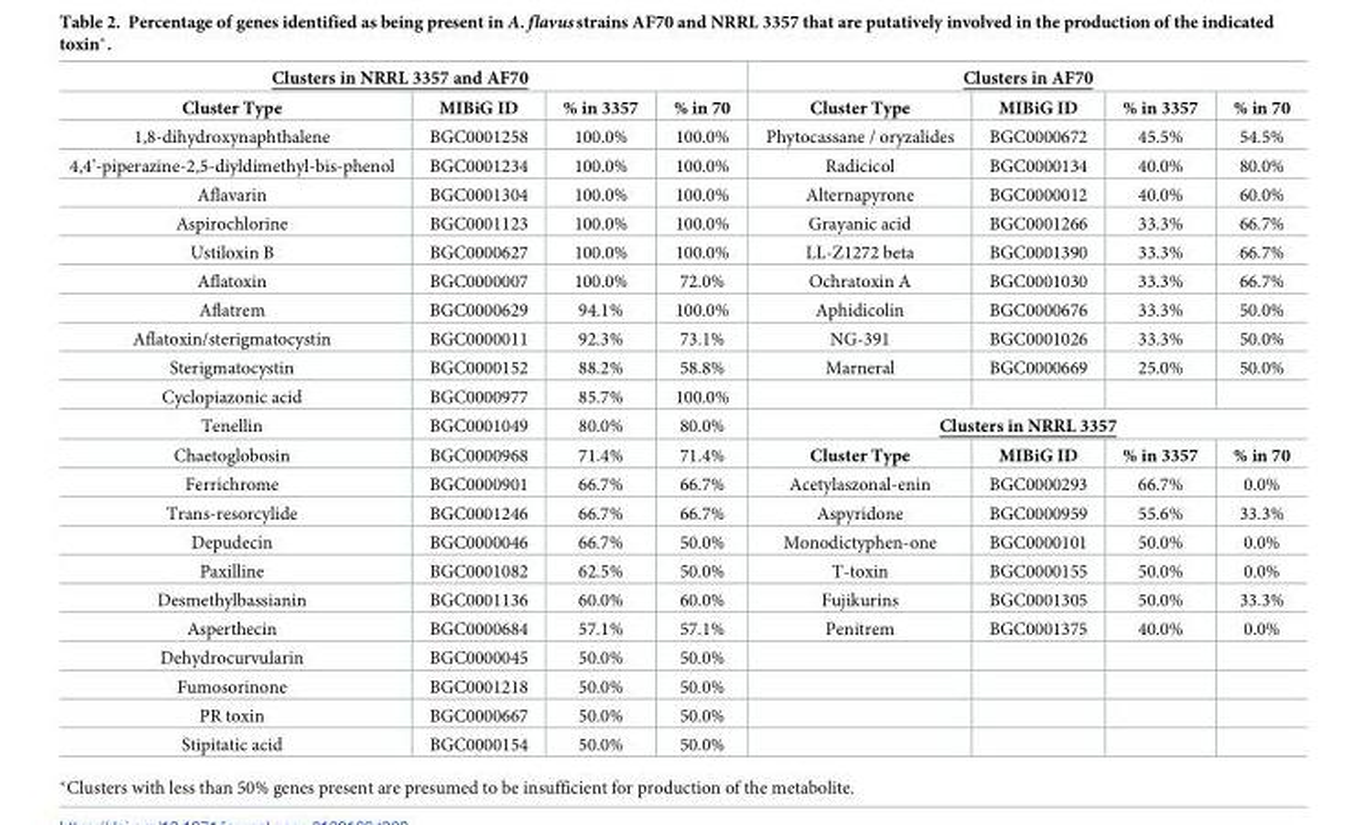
<table><tbody><tr><td colspan="4">Clusters in NRRL 3357 and AF70</td><td colspan="4">Clusters in AF70</td></tr><tr><td>Cluster Type</td><td>MIBiG ID</td><td>% in 3357</td><td>% in 70</td><td>Cluster Type</td><td>MIBiG ID</td><td>% in 3357</td><td>% in 70</td></tr><tr><td>1,8-dihydroxynaphthalene</td><td>BGC0001258</td><td>100.0%</td><td>100.0%</td><td>Phytocassane / oryzalides</td><td>BGC0000672</td><td>45.5%</td><td>54.5%</td></tr><tr><td>4,4’-piperazine-2,5-diyldimethyl-bis-phenol</td><td>BGC0001234</td><td>100.0%</td><td>100.0%</td><td>Radicicol</td><td>BGC0000134</td><td>40.0%</td><td>80.0%</td></tr><tr><td>Aflavarin</td><td>BGC0001304</td><td>100.0%</td><td>100.0%</td><td>Alternapyrone</td><td>BGC0000012</td><td>40.0%</td><td>60.0%</td></tr><tr><td>Aspirochlorine</td><td>BGC0001123</td><td>100.0%</td><td>100.0%</td><td>Grayanic acid</td><td>BGC0001266</td><td>33.3%</td><td>66.7%</td></tr><tr><td>Ustiloxin B</td><td>BGC0000627</td><td>100.0%</td><td>100.0%</td><td>LL-Z1272 beta</td><td>BGC0001390</td><td>33.3%</td><td>66.7%</td></tr><tr><td>Aflatoxin</td><td>BGC0000007</td><td>100.0%</td><td>72.0%</td><td>Ochratoxin A</td><td>BGC0001030</td><td>33.3%</td><td>66.7%</td></tr><tr><td>Aflatrem</td><td>BGC0000629</td><td>94.1%</td><td>100.0%</td><td>Aphidicolin</td><td>BGC0000676</td><td>33.3%</td><td>50.0%</td></tr><tr><td>Aflatoxin/sterigmatocystin</td><td>BGC0000011</td><td>92.3%</td><td>73.1%</td><td>NG-391</td><td>BGC0001026</td><td>33.3%</td><td>50.0%</td></tr><tr><td>Sterigmatocystin</td><td>BGC0000152</td><td>88.2%</td><td>58.8%</td><td>Marneral</td><td>BGC0000669</td><td>25.0%</td><td>50.0%</td></tr><tr><td>Cyclopiazonic acid</td><td>BGC0000977</td><td>85.7%</td><td>100.0%</td><td></td><td></td><td></td><td></td></tr><tr><td>Tenellin</td><td>BGC0001049</td><td>80.0%</td><td>80.0%</td><td colspan="4">Clusters in NRRL 3357</td></tr><tr><td>Chaetoglobosin</td><td>BGC0000968</td><td>71.4%</td><td>71.4%</td><td>Cluster Type</td><td>MIBiG ID</td><td>% in 3357</td><td>% in 70</td></tr><tr><td>Ferrichrome</td><td>BGC0000901</td><td>66.7%</td><td>66.7%</td><td>Acetylaszonal-enin</td><td>BGC0000293</td><td>66.7%</td><td>0.0%</td></tr><tr><td>Trans-resorcylide</td><td>BGC0001246</td><td>66.7%</td><td>66.7%</td><td>Aspyridone</td><td>BGC0000959</td><td>55.6%</td><td>33.3%</td></tr><tr><td>Depudecin</td><td>BGC0000046</td><td>66.7%</td><td>50.0%</td><td>Monodictyphen-one</td><td>BGC0000101</td><td>50.0%</td><td>0.0%</td></tr><tr><td>Paxilline</td><td>BGC0001082</td><td>62.5%</td><td>50.0%</td><td>T-toxin</td><td>BGC0000155</td><td>50.0%</td><td>0.0%</td></tr><tr><td>Desmethylbassianin</td><td>BGC0001136</td><td>60.0%</td><td>60.0%</td><td>Fujikurins</td><td>BGC0001305</td><td>50.0%</td><td>33.3%</td></tr><tr><td>Asperthecin</td><td>BGC0000684</td><td>57.1%</td><td>57.1%</td><td>Penitrem</td><td>BGC0001375</td><td>40.0%</td><td>0.0%</td></tr><tr><td>Dehydrocurvularin</td><td>BGC0000045</td><td>50.0%</td><td>50.0%</td><td></td><td></td><td></td><td></td></tr><tr><td>Fumosorinone</td><td>BGC0001218</td><td>50.0%</td><td>50.0%</td><td></td><td></td><td></td><td></td></tr><tr><td>PR toxin</td><td>BGC0000667</td><td>50.0%</td><td>50.0%</td><td></td><td></td><td></td><td></td></tr><tr><td>Stipitatic acid</td><td>BGC0000154</td><td>50.0%</td><td>50.0%</td><td></td><td></td><td></td><td></td></tr></tbody></table>